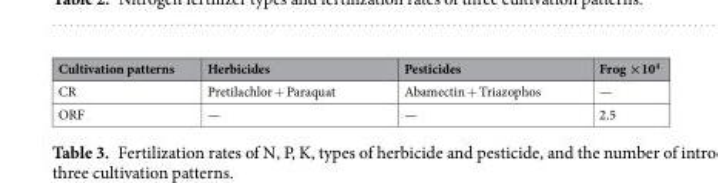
<table><thead><tr><td>Cultivation patterns</td><td>Herbicides</td><td>Pesticides</td><td>Frog ×10<sup>4</sup></td></tr></thead><tbody><tr><td>CR</td><td>Pretilachlor + Paraquat</td><td>Abamectin + Triazophos</td><td>—</td></tr><tr><td>ORF</td><td>—</td><td>—</td><td>2.5</td></tr></tbody></table>